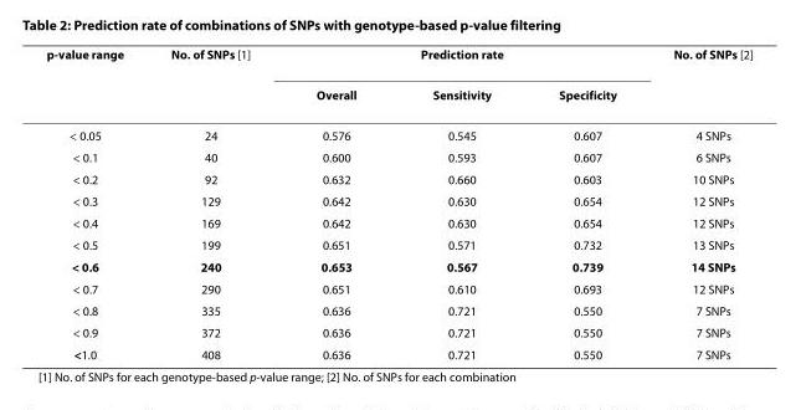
<table><thead><tr><td rowspan="2">p-value range</td><td rowspan="2">No. of SNPs [1]</td><td colspan="3">Prediction rate</td><td rowspan="2">No. of SNPs [2]</td></tr><tr><td>Overall</td><td>Sensitivity</td><td>Specificity</td></tr></thead><tbody><tr><td>&lt; 0.05</td><td>24</td><td>0.576</td><td>0.545</td><td>0.607</td><td>4 SNPs</td></tr><tr><td>&lt; 0.1</td><td>40</td><td>0.600</td><td>0.593</td><td>0.607</td><td>6 SNPs</td></tr><tr><td>&lt; 0.2</td><td>92</td><td>0.632</td><td>0.660</td><td>0.603</td><td>10 SNPs</td></tr><tr><td>&lt; 0.3</td><td>129</td><td>0.642</td><td>0.630</td><td>0.654</td><td>12 SNPs</td></tr><tr><td>&lt; 0.4</td><td>169</td><td>0.642</td><td>0.630</td><td>0.654</td><td>12 SNPs</td></tr><tr><td>&lt; 0.5</td><td>199</td><td>0.651</td><td>0.571</td><td>0.732</td><td>13 SNPs</td></tr><tr><td>&lt; 0.6</td><td>240</td><td>0.653</td><td>0.567</td><td>0.739</td><td>14 SNPs</td></tr><tr><td>&lt; 0.7</td><td>290</td><td>0.651</td><td>0.610</td><td>0.693</td><td>12 SNPs</td></tr><tr><td>&lt; 0.8</td><td>335</td><td>0.636</td><td>0.721</td><td>0.550</td><td>7 SNPs</td></tr><tr><td>&lt; 0.9</td><td>372</td><td>0.636</td><td>0.721</td><td>0.550</td><td>7 SNPs</td></tr><tr><td>&lt;1.0</td><td>408</td><td>0.636</td><td>0.721</td><td>0.550</td><td>7 SNPs</td></tr></tbody></table>